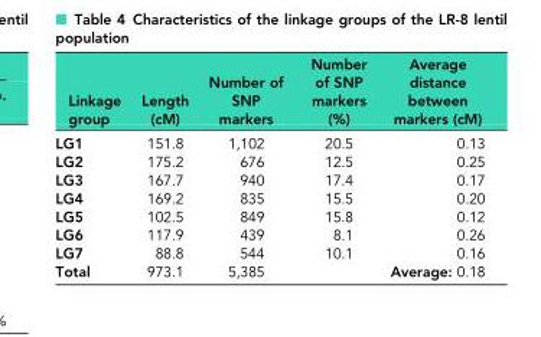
<table><thead><tr><td>Linkage group</td><td>Length (cM)</td><td>Number of SNP markers</td><td>Number of SNP markers (%)</td><td>Average distance between markers (cM)</td></tr></thead><tbody><tr><td>LG1</td><td>151.8</td><td>1,102</td><td>20.5</td><td>0.13</td></tr><tr><td>LG2</td><td>175.2</td><td>676</td><td>12.5</td><td>0.25</td></tr><tr><td>LG3</td><td>167.7</td><td>940</td><td>17.4</td><td>0.17</td></tr><tr><td>LG4</td><td>169.2</td><td>835</td><td>15.5</td><td>0.20</td></tr><tr><td>LG5</td><td>102.5</td><td>849</td><td>15.8</td><td>0.12</td></tr><tr><td>LG6</td><td>117.9</td><td>439</td><td>8.1</td><td>0.26</td></tr><tr><td>LG7</td><td>88.8</td><td>544</td><td>10.1</td><td>0.16</td></tr><tr><td>Total</td><td>973.1</td><td>5,385</td><td></td><td>Average: 0.18</td></tr></tbody></table>